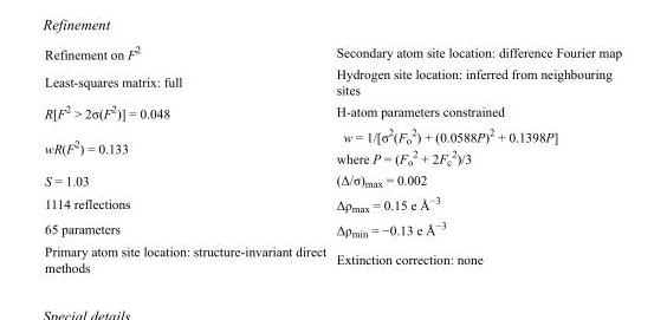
<table><tbody><tr><td>Refinement on F<sup>2</sup></td><td>Secondary atom site location: difference Fourier map</td></tr><tr><td>Least-squares matrix: full</td><td>Hydrogen site location: inferred from neighbouring sites</td></tr><tr><td>R[F<sup>2</sup> &gt; 2σ(F<sup>2</sup>)] = 0.048</td><td>H-atom parameters constrained</td></tr><tr><td>wR(F<sup>2</sup>) = 0.133</td><td>w = 1/[σ<sup>2</sup>(F<sub>o</sub> <sup>2</sup>) + (0.0588P)<sup>2</sup> + 0.1398P] where P = (F<sub>o</sub> <sup>2</sup> + 2F<sub>c</sub> <sup>2</sup>)/3</td></tr><tr><td>S = 1.03</td><td>(Δ/σ)<sub>max</sub> = 0.002</td></tr><tr><td>1114 reflections</td><td>Δρ<sub>max</sub> = 0.15 e Å<sup>−3</sup></td></tr><tr><td>65 parameters</td><td>Δρ<sub>min</sub> = −0.13 e Å<sup>−3</sup></td></tr><tr><td>Primary atom site location: structure-invariant direct methods</td><td>Extinction correction: none</td></tr></tbody></table>